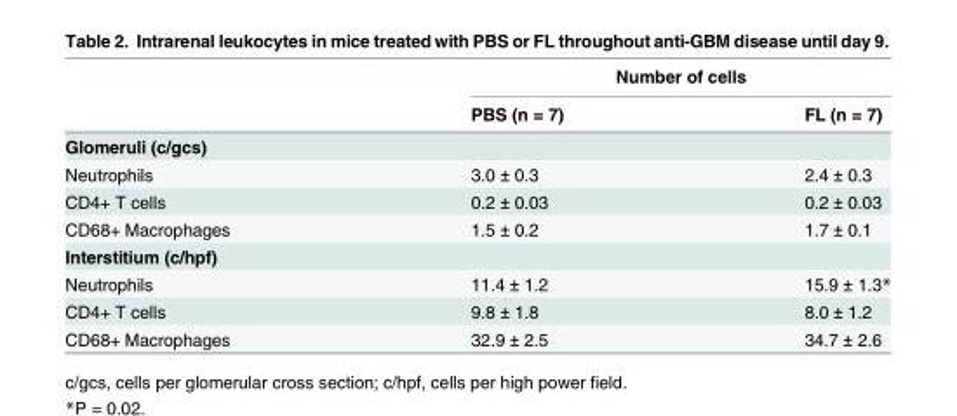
<table><thead><tr><td rowspan="2"></td><td colspan="2">Number of cells</td></tr><tr><td>PBS (n = 7)</td><td>FL (n = 7)</td></tr></thead><tbody><tr><td colspan="3">Glomeruli (c/gcs)</td></tr><tr><td>Neutrophils</td><td>3.0 ± 0.3</td><td>2.4 ± 0.3</td></tr><tr><td>CD4+ T cells</td><td>0.2 ± 0.03</td><td>0.2 ± 0.03</td></tr><tr><td>CD68+ Macrophages</td><td>1.5 ± 0.2</td><td>1.7 ± 0.1</td></tr><tr><td colspan="3">Interstitium (c/hpf)</td></tr><tr><td>Neutrophils</td><td>11.4 ± 1.2</td><td>15.9 ± 1.3*</td></tr><tr><td>CD4+ T cells</td><td>9.8 ± 1.8</td><td>8.0 ± 1.2</td></tr><tr><td>CD68+ Macrophages</td><td>32.9 ± 2.5</td><td>34.7 ± 2.6</td></tr></tbody></table>